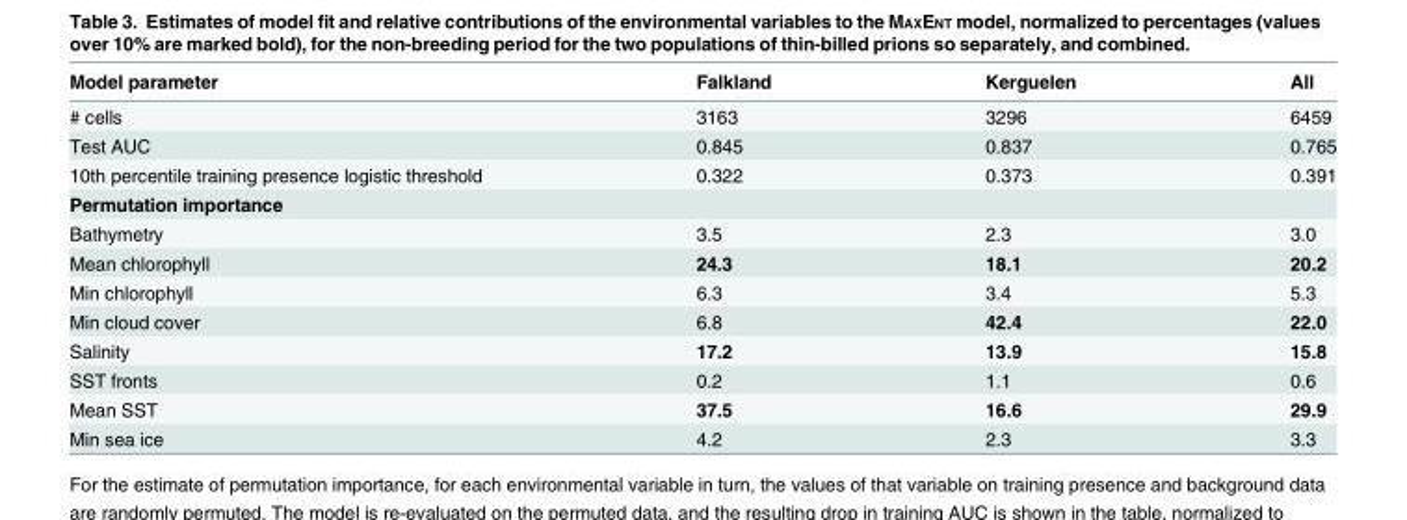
<table><thead><tr><td>Model parameter</td><td>Falkland</td><td>Kerguelen</td><td>All</td></tr></thead><tbody><tr><td># cells</td><td>3163</td><td>3296</td><td>6459</td></tr><tr><td>Test AUC</td><td>0.845</td><td>0.837</td><td>0.765</td></tr><tr><td>10th percentile training presence logistic threshold</td><td>0.322</td><td>0.373</td><td>0.391</td></tr><tr><td colspan="4">Permutation importance</td></tr><tr><td>Bathymetry</td><td>3.5</td><td>2.3</td><td>3.0</td></tr><tr><td>Mean chlorophyll</td><td>24.3</td><td>18.1</td><td>20.2</td></tr><tr><td>Min chlorophyll</td><td>6.3</td><td>3.4</td><td>5.3</td></tr><tr><td>Min cloud cover</td><td>6.8</td><td>42.4</td><td>22.0</td></tr><tr><td>Salinity</td><td>17.2</td><td>13.9</td><td>15.8</td></tr><tr><td>SST fronts</td><td>0.2</td><td>1.1</td><td>0.6</td></tr><tr><td>Mean SST</td><td>37.5</td><td>16.6</td><td>29.9</td></tr><tr><td>Min sea ice</td><td>4.2</td><td>2.3</td><td>3.3</td></tr></tbody></table>